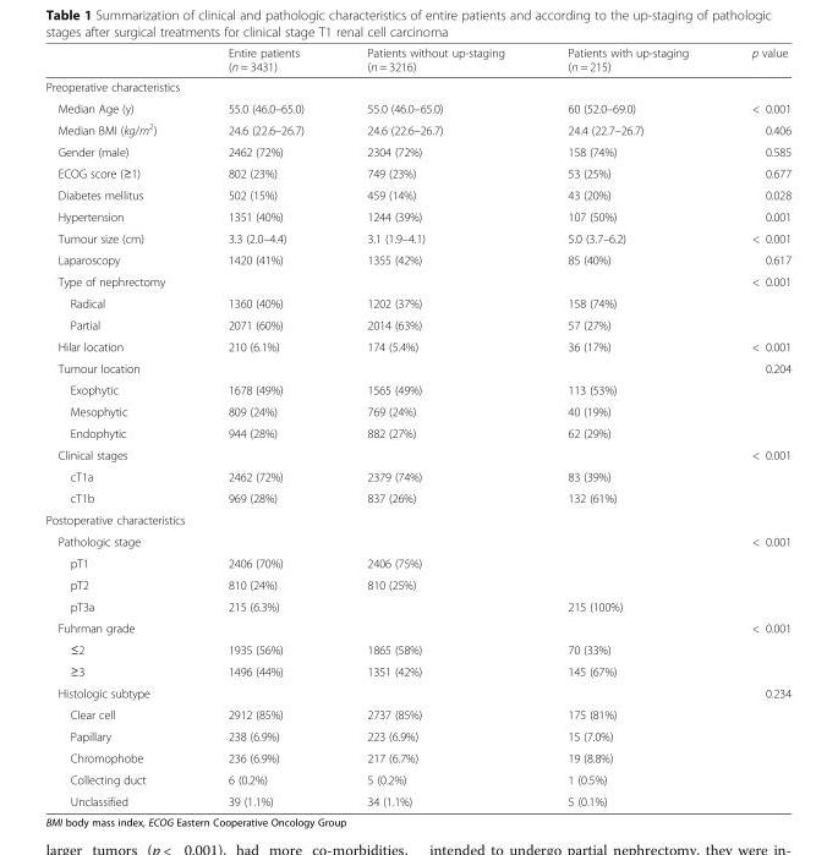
<table><thead><tr><td></td><td>Entire patients (n = 3431)</td><td>Patients without up-staging (n = 3216)</td><td>Patients with up-staging (n = 215)</td><td>p value</td></tr></thead><tbody><tr><td colspan="5">Preoperative characteristics</td></tr><tr><td>Median Age (y)</td><td>55.0 (46.0–65.0)</td><td>55.0 (46.0–65.0)</td><td>60 (52.0–69.0)</td><td>&lt; 0.001</td></tr><tr><td>Median BMI (kg/m<sup>2</sup>)</td><td>24.6 (22.6–26.7)</td><td>24.6 (22.6–26.7)</td><td>24.4 (22.7–26.7)</td><td>0.406</td></tr><tr><td>Gender (male)</td><td>2462 (72%)</td><td>2304 (72%)</td><td>158 (74%)</td><td>0.585</td></tr><tr><td>ECOG score (≥1)</td><td>802 (23%)</td><td>749 (23%)</td><td>53 (25%)</td><td>0.677</td></tr><tr><td>Diabetes mellitus</td><td>502 (15%)</td><td>459 (14%)</td><td>43 (20%)</td><td>0.028</td></tr><tr><td>Hypertension</td><td>1351 (40%)</td><td>1244 (39%)</td><td>107 (50%)</td><td>0.001</td></tr><tr><td>Tumour size (cm)</td><td>3.3 (2.0–4.4)</td><td>3.1 (1.9–4.1)</td><td>5.0 (3.7–6.2)</td><td>&lt; 0.001</td></tr><tr><td>Laparoscopy</td><td>1420 (41%)</td><td>1355 (42%)</td><td>85 (40%)</td><td>0.617</td></tr><tr><td>Type of nephrectomy</td><td></td><td></td><td></td><td>&lt; 0.001</td></tr><tr><td>Radical</td><td>1360 (40%)</td><td>1202 (37%)</td><td>158 (74%)</td><td></td></tr><tr><td>Partial</td><td>2071 (60%)</td><td>2014 (63%)</td><td>57 (27%)</td><td></td></tr><tr><td>Hilar location</td><td>210 (6.1%)</td><td>174 (5.4%)</td><td>36 (17%)</td><td>&lt; 0.001</td></tr><tr><td>Tumour location</td><td></td><td></td><td></td><td>0.204</td></tr><tr><td>Exophytic</td><td>1678 (49%)</td><td>1565 (49%)</td><td>113 (53%)</td><td></td></tr><tr><td>Mesophytic</td><td>809 (24%)</td><td>769 (24%)</td><td>40 (19%)</td><td></td></tr><tr><td>Endophytic</td><td>944 (28%)</td><td>882 (27%)</td><td>62 (29%)</td><td></td></tr><tr><td>Clinical stages</td><td></td><td></td><td></td><td>&lt; 0.001</td></tr><tr><td>cT1a</td><td>2462 (72%)</td><td>2379 (74%)</td><td>83 (39%)</td><td></td></tr><tr><td>cT1b</td><td>969 (28%)</td><td>837 (26%)</td><td>132 (61%)</td><td></td></tr><tr><td colspan="5">Postoperative characteristics</td></tr><tr><td>Pathologic stage</td><td></td><td></td><td></td><td>&lt; 0.001</td></tr><tr><td>pT1</td><td>2406 (70%)</td><td>2406 (75%)</td><td></td><td></td></tr><tr><td>pT2</td><td>810 (24%)</td><td>810 (25%)</td><td></td><td></td></tr><tr><td>pT3a</td><td>215 (6.3%)</td><td></td><td>215 (100%)</td><td></td></tr><tr><td>Fuhrman grade</td><td></td><td></td><td></td><td>&lt; 0.001</td></tr><tr><td>≤2</td><td>1935 (56%)</td><td>1865 (58%)</td><td>70 (33%)</td><td></td></tr><tr><td>≥3</td><td>1496 (44%)</td><td>1351 (42%)</td><td>145 (67%)</td><td></td></tr><tr><td>Histologic subtype</td><td></td><td></td><td></td><td>0.234</td></tr><tr><td>Clear cell</td><td>2912 (85%)</td><td>2737 (85%)</td><td>175 (81%)</td><td></td></tr><tr><td>Papillary</td><td>238 (6.9%)</td><td>223 (6.9%)</td><td>15 (7.0%)</td><td></td></tr><tr><td>Chromophobe</td><td>236 (6.9%)</td><td>217 (6.7%)</td><td>19 (8.8%)</td><td></td></tr><tr><td>Collecting duct</td><td>6 (0.2%)</td><td>5 (0.2%)</td><td>1 (0.5%)</td><td></td></tr><tr><td>Unclassified</td><td>39 (1.1%)</td><td>34 (1.1%)</td><td>5 (0.1%)</td><td></td></tr></tbody></table>